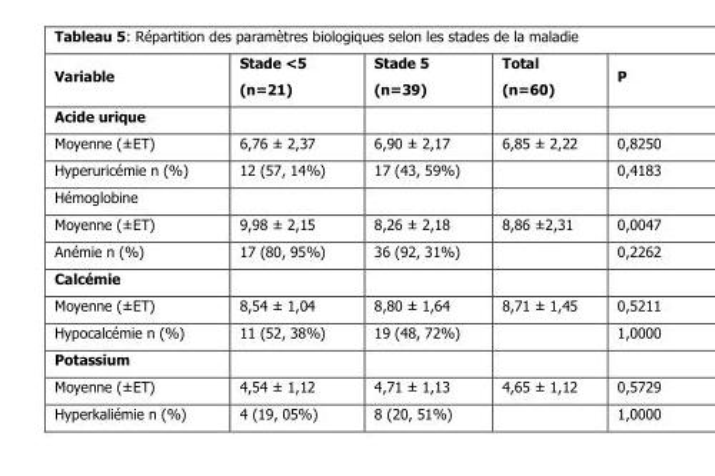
<table><thead><tr><td>Variable</td><td>Stade &lt;5 (n=21)</td><td>Stade 5 (n=39)</td><td>Total (n=60)</td><td>P</td></tr></thead><tbody><tr><td colspan="5">Acide urique</td></tr><tr><td>Moyenne (±ET)</td><td>6,76 ± 2,37</td><td>6,90 ± 2,17</td><td>6,85 ± 2,22</td><td>0,8250</td></tr><tr><td>Hyperuricémie n (%)</td><td>12 (57, 14%)</td><td>17 (43, 59%)</td><td></td><td>0,4183</td></tr><tr><td colspan="5">Hémoglobine</td></tr><tr><td>Moyenne (±ET)</td><td>9,98 ± 2,15</td><td>8,26 ± 2,18</td><td>8,86 ±2,31</td><td>0,0047</td></tr><tr><td>Anémie n (%)</td><td>17 (80, 95%)</td><td>36 (92, 31%)</td><td></td><td>0,2262</td></tr><tr><td colspan="5">Calcémie</td></tr><tr><td>Moyenne (±ET)</td><td>8,54 ± 1,04</td><td>8,80 ± 1,64</td><td>8,71 ± 1,45</td><td>0,5211</td></tr><tr><td>Hypocalcémie n (%)</td><td>11 (52, 38%)</td><td>19 (48, 72%)</td><td></td><td>1,0000</td></tr><tr><td colspan="5">Potassium</td></tr><tr><td>Moyenne (±ET)</td><td>4,54 ± 1,12</td><td>4,71 ± 1,13</td><td>4,65 ± 1,12</td><td>0,5729</td></tr><tr><td>Hyperkaliémie n (%)</td><td>4 (19, 05%)</td><td>8 (20, 51%)</td><td></td><td>1,0000</td></tr></tbody></table>